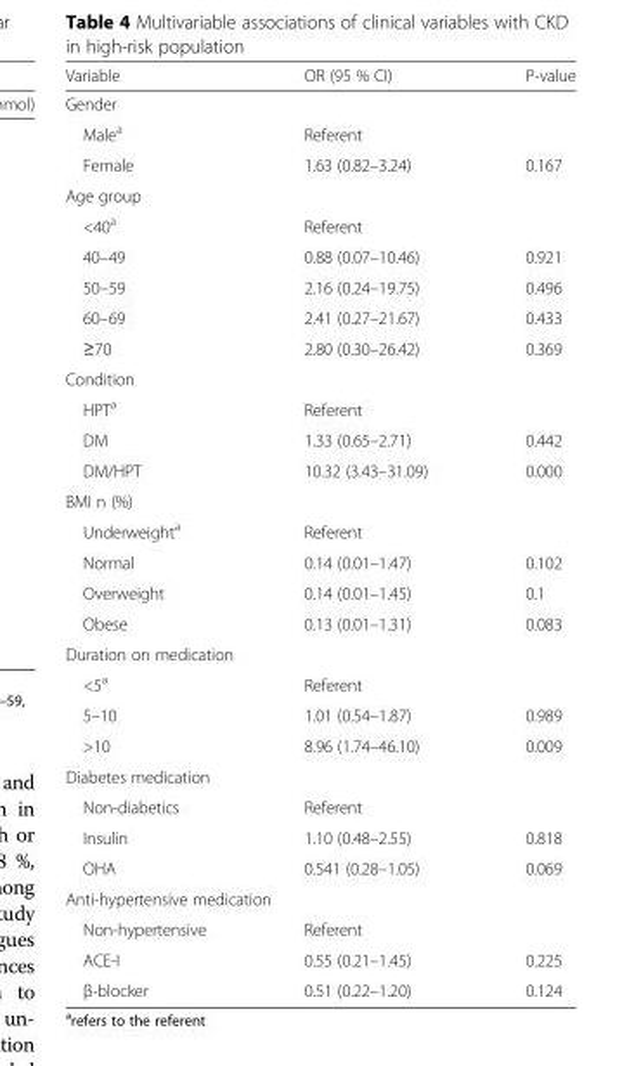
<table><thead><tr><td>Variable</td><td>OR (95 % CI)</td><td>P-value</td></tr></thead><tbody><tr><td colspan="3">Gender</td></tr><tr><td>Male<sup>a</sup></td><td>Referent</td><td></td></tr><tr><td>Female</td><td>1.63 (0.82–3.24)</td><td>0.167</td></tr><tr><td colspan="3">Age group</td></tr><tr><td>&lt;40<sup>a</sup></td><td>Referent</td><td></td></tr><tr><td>40–49</td><td>0.88 (0.07–10.46)</td><td>0.921</td></tr><tr><td>50–59</td><td>2.16 (0.24–19.75)</td><td>0.496</td></tr><tr><td>60–69</td><td>2.41 (0.27–21.67)</td><td>0.433</td></tr><tr><td>≥70</td><td>2.80 (0.30–26.42)</td><td>0.369</td></tr><tr><td colspan="3">Condition</td></tr><tr><td>HPT<sup>a</sup></td><td>Referent</td><td></td></tr><tr><td>DM</td><td>1.33 (0.65–2.71)</td><td>0.442</td></tr><tr><td>DM/HPT</td><td>10.32 (3.43–31.09)</td><td>0.000</td></tr><tr><td colspan="3">BMI n (%)</td></tr><tr><td>Underweight<sup>a</sup></td><td>Referent</td><td></td></tr><tr><td>Normal</td><td>0.14 (0.01–1.47)</td><td>0.102</td></tr><tr><td>Overweight</td><td>0.14 (0.01–1.45)</td><td>0.1</td></tr><tr><td>Obese</td><td>0.13 (0.01–1.31)</td><td>0.083</td></tr><tr><td colspan="3">Duration on medication</td></tr><tr><td>&lt;5<sup>a</sup></td><td>Referent</td><td></td></tr><tr><td>5–10</td><td>1.01 (0.54–1.87)</td><td>0.989</td></tr><tr><td>&gt;10</td><td>8.96 (1.74–46.10)</td><td>0.009</td></tr><tr><td colspan="3">Diabetes medication</td></tr><tr><td>Non-diabetics</td><td>Referent</td><td></td></tr><tr><td>Insulin</td><td>1.10 (0.48–2.55)</td><td>0.818</td></tr><tr><td>OHA</td><td>0.541 (0.28–1.05)</td><td>0.069</td></tr><tr><td colspan="3">Anti-hypertensive medication</td></tr><tr><td>Non-hypertensive</td><td>Referent</td><td></td></tr><tr><td>ACE-I</td><td>0.55 (0.21–1.45)</td><td>0.225</td></tr><tr><td>β-blocker</td><td>0.51 (0.22–1.20)</td><td>0.124</td></tr></tbody></table>